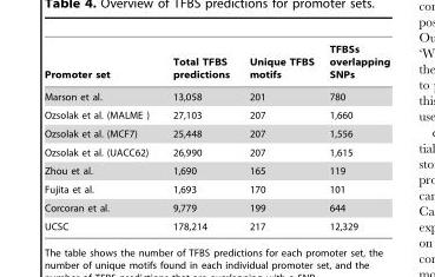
<table><thead><tr><td>Promoter set</td><td>Total TFBS predictions</td><td>Unique TFBS motifs</td><td>TFBSs overlapping SNPs</td></tr></thead><tbody><tr><td>Marson et al.</td><td>13,058</td><td>201</td><td>780</td></tr><tr><td>Ozsolak et al. (MALME )</td><td>27,103</td><td>207</td><td>1,660</td></tr><tr><td>Ozsolak et al. (MCF7)</td><td>25,448</td><td>207</td><td>1,556</td></tr><tr><td>Ozsolak et al. (UACC62)</td><td>26,990</td><td>207</td><td>1,615</td></tr><tr><td>Zhou et al.</td><td>1,690</td><td>165</td><td>119</td></tr><tr><td>Fujita et al.</td><td>1,693</td><td>170</td><td>101</td></tr><tr><td>Corcoran et al.</td><td>9,779</td><td>199</td><td>644</td></tr><tr><td>UCSC</td><td>178,214</td><td>217</td><td>12,329</td></tr></tbody></table>